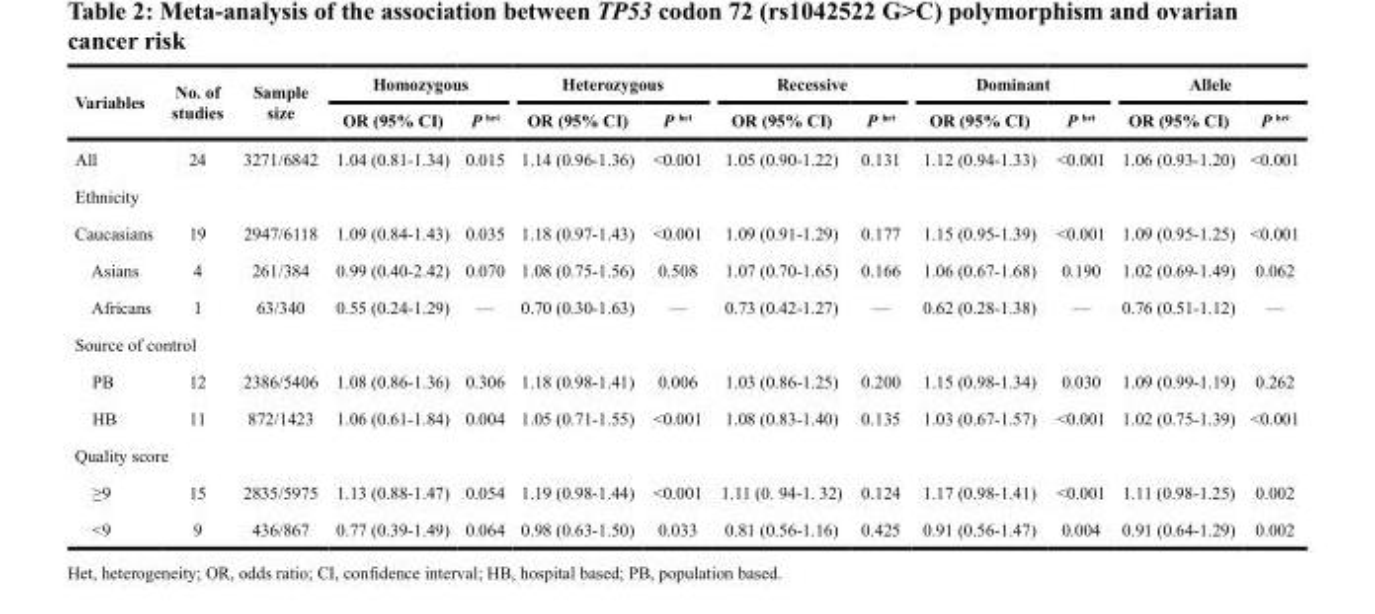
<table><thead><tr><td rowspan="2">Variables</td><td rowspan="2">No. of studies</td><td rowspan="2">Sample size</td><td colspan="2">Homozygous</td><td colspan="2">Heterozygous</td><td colspan="2">Recessive</td><td colspan="2">Dominant</td><td colspan="2">Allele</td></tr><tr><td>OR (95% CI)</td><td>P <sup>het</sup></td><td>OR (95% CI)</td><td>P <sup>het</sup></td><td>OR (95% CI)</td><td>P <sup>het</sup></td><td>OR (95% CI)</td><td>P <sup>het</sup></td><td>OR (95% CI)</td><td>P <sup>het</sup></td></tr></thead><tbody><tr><td>All</td><td>24</td><td>3271/6842</td><td>1.04 (0.81-1.34)</td><td>0.015</td><td>1.14 (0.96-1.36)</td><td>&lt;0.001</td><td>1.05 (0.90-1.22)</td><td>0.131</td><td>1.12 (0.94-1.33)</td><td>&lt;0.001</td><td>1.06 (0.93-1.20)</td><td>&lt;0.001</td></tr><tr><td colspan="13">Ethnicity</td></tr><tr><td>Caucasians</td><td>19</td><td>2947/6118</td><td>1.09 (0.84-1.43)</td><td>0.035</td><td>1.18 (0.97-1.43)</td><td>&lt;0.001</td><td>1.09 (0.91-1.29)</td><td>0.177</td><td>1.15 (0.95-1.39)</td><td>&lt;0.001</td><td>1.09 (0.95-1.25)</td><td>&lt;0.001</td></tr><tr><td>Asians</td><td>4</td><td>261/384</td><td>0.99 (0.40-2.42)</td><td>0.070</td><td>1.08 (0.75-1.56)</td><td>0.508</td><td>1.07 (0.70-1.65)</td><td>0.166</td><td>1.06 (0.67-1.68)</td><td>0.190</td><td>1.02 (0.69-1.49)</td><td>0.062</td></tr><tr><td>Africans</td><td>1</td><td>63/340</td><td>0.55 (0.24-1.29)</td><td>—</td><td>0.70 (0.30-1.63)</td><td>—</td><td>0.73 (0.42-1.27)</td><td>—</td><td>0.62 (0.28-1.38)</td><td>—</td><td>0.76 (0.51-1.12)</td><td>—</td></tr><tr><td colspan="13">Source of control</td></tr><tr><td>PB</td><td>12</td><td>2386/5406</td><td>1.08 (0.86-1.36)</td><td>0.306</td><td>1.18 (0.98-1.41)</td><td>0.006</td><td>1.03 (0.86-1.25)</td><td>0.200</td><td>1.15 (0.98-1.34)</td><td>0.030</td><td>1.09 (0.99-1.19)</td><td>0.262</td></tr><tr><td>HB</td><td>11</td><td>872/1423</td><td>1.06 (0.61-1.84)</td><td>0.004</td><td>1.05 (0.71-1.55)</td><td>&lt;0.001</td><td>1.08 (0.83-1.40)</td><td>0.135</td><td>1.03 (0.67-1.57)</td><td>&lt;0.001</td><td>1.02 (0.75-1.39)</td><td>&lt;0.001</td></tr><tr><td colspan="13">Quality score</td></tr><tr><td>≥9</td><td>15</td><td>2835/5975</td><td>1.13 (0.88-1.47)</td><td>0.054</td><td>1.19 (0.98-1.44)</td><td>&lt;0.001</td><td>1.11 (0. 94-1. 32)</td><td>0.124</td><td>1.17 (0.98-1.41)</td><td>&lt;0.001</td><td>1.11 (0.98-1.25)</td><td>0.002</td></tr><tr><td>&lt;9</td><td>9</td><td>436/867</td><td>0.77 (0.39-1.49)</td><td>0.064</td><td>0.98 (0.63-1.50)</td><td>0.033</td><td>0.81 (0.56-1.16)</td><td>0.425</td><td>0.91 (0.56-1.47)</td><td>0.004</td><td>0.91 (0.64-1.29)</td><td>0.002</td></tr></tbody></table>